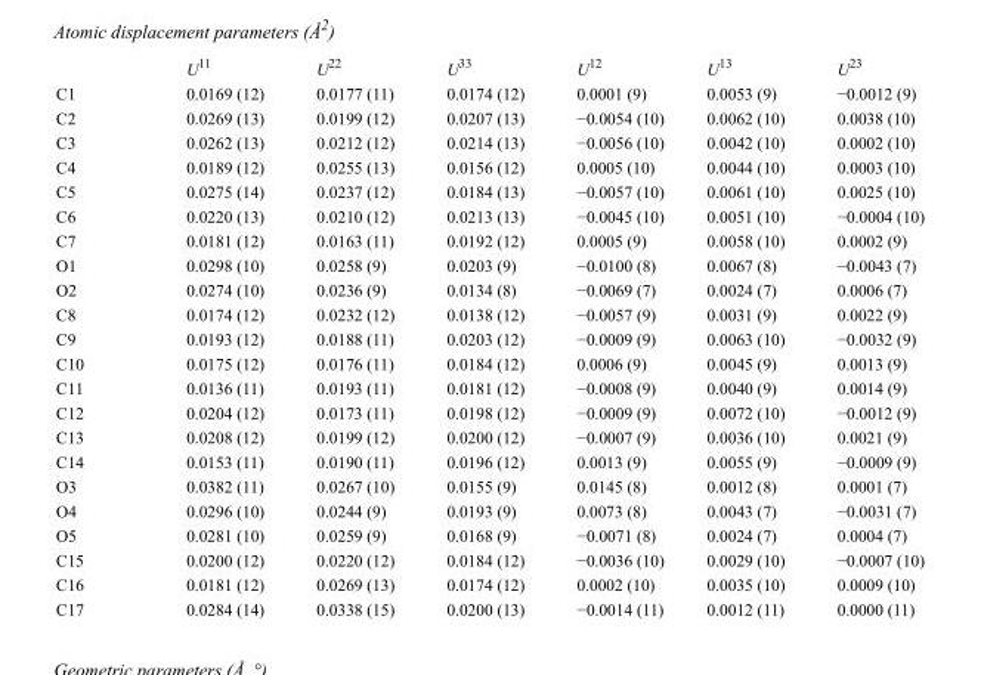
<table><thead><tr><td></td><td>U<sup>11</sup></td><td>U<sup>22</sup></td><td>U<sup>33</sup></td><td>U<sup>12</sup></td><td>U<sup>13</sup></td><td>U<sup>23</sup></td></tr></thead><tbody><tr><td>C1</td><td>0.0169 (12)</td><td>0.0177 (11)</td><td>0.0174 (12)</td><td>0.0001 (9)</td><td>0.0053 (9)</td><td>−0.0012 (9)</td></tr><tr><td>C2</td><td>0.0269 (13)</td><td>0.0199 (12)</td><td>0.0207 (13)</td><td>−0.0054 (10)</td><td>0.0062 (10)</td><td>0.0038 (10)</td></tr><tr><td>C3</td><td>0.0262 (13)</td><td>0.0212 (12)</td><td>0.0214 (13)</td><td>−0.0056 (10)</td><td>0.0042 (10)</td><td>0.0002 (10)</td></tr><tr><td>C4</td><td>0.0189 (12)</td><td>0.0255 (13)</td><td>0.0156 (12)</td><td>0.0005 (10)</td><td>0.0044 (10)</td><td>0.0003 (10)</td></tr><tr><td>C5</td><td>0.0275 (14)</td><td>0.0237 (12)</td><td>0.0184 (13)</td><td>−0.0057 (10)</td><td>0.0061 (10)</td><td>0.0025 (10)</td></tr><tr><td>C6</td><td>0.0220 (13)</td><td>0.0210 (12)</td><td>0.0213 (13)</td><td>−0.0045 (10)</td><td>0.0051 (10)</td><td>−0.0004 (10)</td></tr><tr><td>C7</td><td>0.0181 (12)</td><td>0.0163 (11)</td><td>0.0192 (12)</td><td>0.0005 (9)</td><td>0.0058 (10)</td><td>0.0002 (9)</td></tr><tr><td>O1</td><td>0.0298 (10)</td><td>0.0258 (9)</td><td>0.0203 (9)</td><td>−0.0100 (8)</td><td>0.0067 (8)</td><td>−0.0043 (7)</td></tr><tr><td>O2</td><td>0.0274 (10)</td><td>0.0236 (9)</td><td>0.0134 (8)</td><td>−0.0069 (7)</td><td>0.0024 (7)</td><td>0.0006 (7)</td></tr><tr><td>C8</td><td>0.0174 (12)</td><td>0.0232 (12)</td><td>0.0138 (12)</td><td>−0.0057 (9)</td><td>0.0031 (9)</td><td>0.0022 (9)</td></tr><tr><td>C9</td><td>0.0193 (12)</td><td>0.0188 (11)</td><td>0.0203 (12)</td><td>−0.0009 (9)</td><td>0.0063 (10)</td><td>−0.0032 (9)</td></tr><tr><td>C10</td><td>0.0175 (12)</td><td>0.0176 (11)</td><td>0.0184 (12)</td><td>0.0006 (9)</td><td>0.0045 (9)</td><td>0.0013 (9)</td></tr><tr><td>C11</td><td>0.0136 (11)</td><td>0.0193 (11)</td><td>0.0181 (12)</td><td>−0.0008 (9)</td><td>0.0040 (9)</td><td>0.0014 (9)</td></tr><tr><td>C12</td><td>0.0204 (12)</td><td>0.0173 (11)</td><td>0.0198 (12)</td><td>−0.0009 (9)</td><td>0.0072 (10)</td><td>−0.0012 (9)</td></tr><tr><td>C13</td><td>0.0208 (12)</td><td>0.0199 (12)</td><td>0.0200 (12)</td><td>−0.0007 (9)</td><td>0.0036 (10)</td><td>0.0021 (9)</td></tr><tr><td>C14</td><td>0.0153 (11)</td><td>0.0190 (11)</td><td>0.0196 (12)</td><td>0.0013 (9)</td><td>0.0055 (9)</td><td>−0.0009 (9)</td></tr><tr><td>O3</td><td>0.0382 (11)</td><td>0.0267 (10)</td><td>0.0155 (9)</td><td>0.0145 (8)</td><td>0.0012 (8)</td><td>0.0001 (7)</td></tr><tr><td>O4</td><td>0.0296 (10)</td><td>0.0244 (9)</td><td>0.0193 (9)</td><td>0.0073 (8)</td><td>0.0043 (7)</td><td>−0.0031 (7)</td></tr><tr><td>O5</td><td>0.0281 (10)</td><td>0.0259 (9)</td><td>0.0168 (9)</td><td>−0.0071 (8)</td><td>0.0024 (7)</td><td>0.0004 (7)</td></tr><tr><td>C15</td><td>0.0200 (12)</td><td>0.0220 (12)</td><td>0.0184 (12)</td><td>−0.0036 (10)</td><td>0.0029 (10)</td><td>−0.0007 (10)</td></tr><tr><td>C16</td><td>0.0181 (12)</td><td>0.0269 (13)</td><td>0.0174 (12)</td><td>0.0002 (10)</td><td>0.0035 (10)</td><td>0.0009 (10)</td></tr><tr><td>C17</td><td>0.0284 (14)</td><td>0.0338 (15)</td><td>0.0200 (13)</td><td>−0.0014 (11)</td><td>0.0012 (11)</td><td>0.0000 (11)</td></tr></tbody></table>